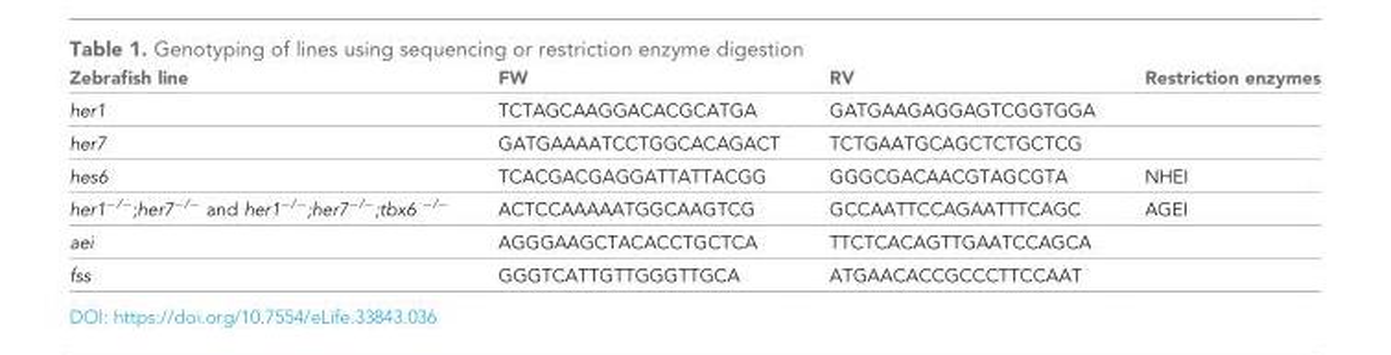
<table><thead><tr><td>Zebrafish line</td><td>FW</td><td>RV</td><td>Restriction enzymes</td></tr></thead><tbody><tr><td>her1</td><td>TCTAGCAAGGACACGCATGA</td><td>GATGAAGAGGAGTCGGTGGA</td><td></td></tr><tr><td>her7</td><td>GATGAAAATCCTGGCACAGACT</td><td>TCTGAATGCAGCTCTGCTCG</td><td></td></tr><tr><td>hes6</td><td>TCACGACGAGGATTATTACGG</td><td>GGGCGACAACGTAGCGTA</td><td>NHEI</td></tr><tr><td>her1<sup>−/−</sup>;her7<sup>−/−</sup> and her1<sup>−/−</sup>;her7<sup>−/−</sup>;tbx6 <sup>−/−</sup></td><td>ACTCCAAAAATGGCAAGTCG</td><td>GCCAATTCCAGAATTTCAGC</td><td>AGEI</td></tr><tr><td>aei</td><td>AGGGAAGCTACACCTGCTCA</td><td>TTCTCACAGTTGAATCCAGCA</td><td></td></tr><tr><td>fss</td><td>GGGTCATTGTTGGGTTGCA</td><td>ATGAACACCGCCCTTCCAAT</td><td></td></tr></tbody></table>